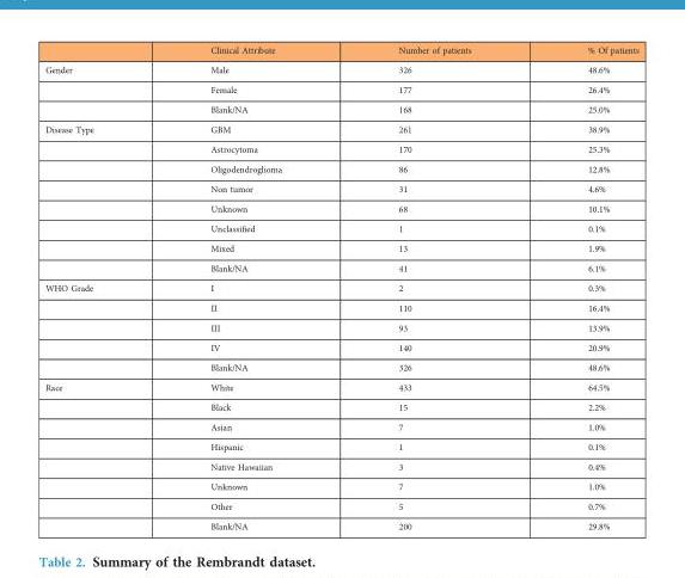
<table><thead><tr><td></td><td>Clinical Attribute</td><td>Number of patients</td><td>% Of patients</td></tr></thead><tbody><tr><td rowspan="3">Gender</td><td>Male</td><td>326</td><td>48.6%</td></tr><tr><td>Female</td><td>177</td><td>26.4%</td></tr><tr><td>Blank/NA</td><td>168</td><td>25.0%</td></tr><tr><td rowspan="8">Disease Type</td><td>GBM</td><td>261</td><td>38.9%</td></tr><tr><td>Astrocytoma</td><td>170</td><td>25.3%</td></tr><tr><td>Oligodendroglioma</td><td>86</td><td>12.8%</td></tr><tr><td>Non tumor</td><td>31</td><td>4.6%</td></tr><tr><td>Unknown</td><td>68</td><td>10.1%</td></tr><tr><td>Unclassified</td><td>1</td><td>0.1%</td></tr><tr><td>Mixed</td><td>13</td><td>1.9%</td></tr><tr><td>Blank/NA</td><td>41</td><td>6.1%</td></tr><tr><td rowspan="5">WHO Grade</td><td>I</td><td>2</td><td>0.3%</td></tr><tr><td>II</td><td>110</td><td>16.4%</td></tr><tr><td>III</td><td>93</td><td>13.9%</td></tr><tr><td>IV</td><td>140</td><td>20.9%</td></tr><tr><td>Blank/NA</td><td>326</td><td>48.6%</td></tr><tr><td rowspan="8">Race</td><td>White</td><td>433</td><td>64.5%</td></tr><tr><td>Black</td><td>15</td><td>2.2%</td></tr><tr><td>Asian</td><td>7</td><td>1.0%</td></tr><tr><td>Hispanic</td><td>1</td><td>0.1%</td></tr><tr><td>Native Hawaiian</td><td>3</td><td>0.4%</td></tr><tr><td>Unknown</td><td>7</td><td>1.0%</td></tr><tr><td>Other</td><td>5</td><td>0.7%</td></tr><tr><td>Blank/NA</td><td>200</td><td>29.8%</td></tr></tbody></table>